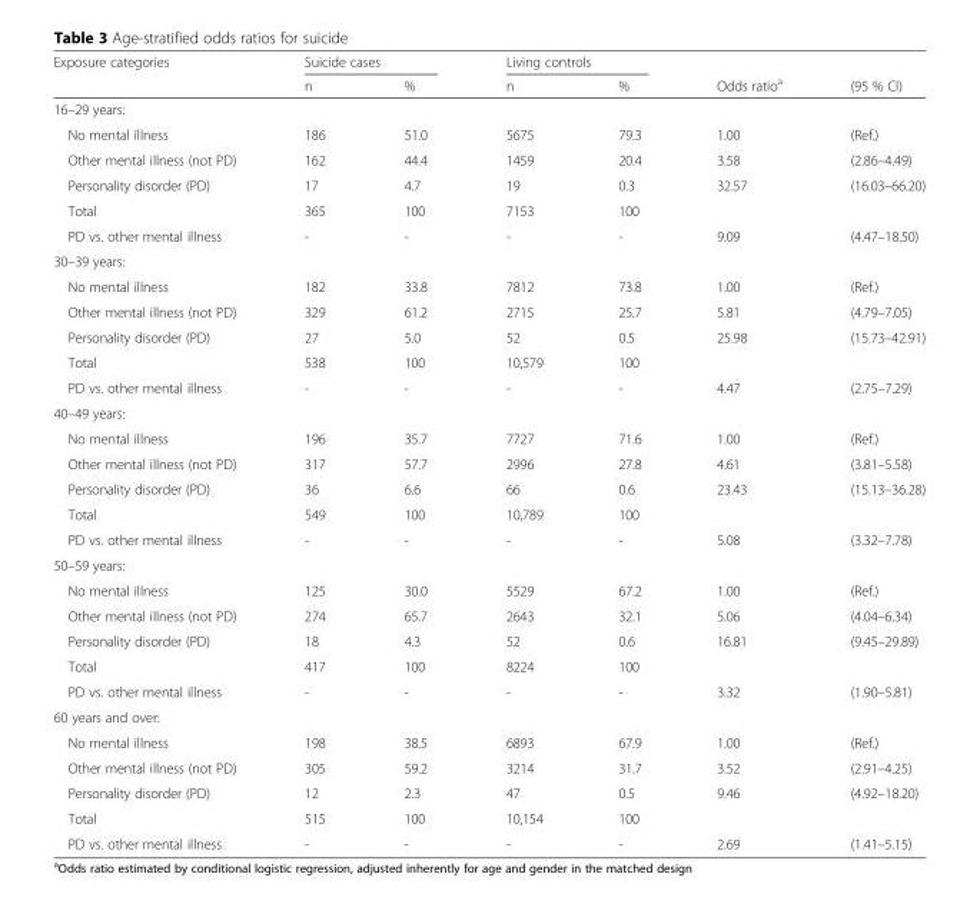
<table><thead><tr><td rowspan="2">Exposure categories</td><td colspan="2">Suicide cases</td><td colspan="2">Living controls</td><td rowspan="2">Odds ratio<sup>a</sup></td><td rowspan="2">(95 % CI)</td></tr><tr><td>n</td><td>%</td><td>n</td><td>%</td></tr></thead><tbody><tr><td colspan="7">16–29 years:</td></tr><tr><td>No mental illness</td><td>186</td><td>51.0</td><td>5675</td><td>79.3</td><td>1.00</td><td>(Ref.)</td></tr><tr><td>Other mental illness (not PD)</td><td>162</td><td>44.4</td><td>1459</td><td>20.4</td><td>3.58</td><td>(2.86–4.49)</td></tr><tr><td>Personality disorder (PD)</td><td>17</td><td>4.7</td><td>19</td><td>0.3</td><td>32.57</td><td>(16.03–66.20)</td></tr><tr><td>Total</td><td>365</td><td>100</td><td>7153</td><td>100</td><td></td><td></td></tr><tr><td>PD vs. other mental illness</td><td>-</td><td>-</td><td>-</td><td>-</td><td>9.09</td><td>(4.47–18.50)</td></tr><tr><td colspan="7">30–39 years:</td></tr><tr><td>No mental illness</td><td>182</td><td>33.8</td><td>7812</td><td>73.8</td><td>1.00</td><td>(Ref.)</td></tr><tr><td>Other mental illness (not PD)</td><td>329</td><td>61.2</td><td>2715</td><td>25.7</td><td>5.81</td><td>(4.79–7.05)</td></tr><tr><td>Personality disorder (PD)</td><td>27</td><td>5.0</td><td>52</td><td>0.5</td><td>25.98</td><td>(15.73–42.91)</td></tr><tr><td>Total</td><td>538</td><td>100</td><td>10,579</td><td>100</td><td></td><td></td></tr><tr><td>PD vs. other mental illness</td><td>-</td><td>-</td><td>-</td><td>-</td><td>4.47</td><td>(2.75–7.29)</td></tr><tr><td colspan="7">40–49 years:</td></tr><tr><td>No mental illness</td><td>196</td><td>35.7</td><td>7727</td><td>71.6</td><td>1.00</td><td>(Ref.)</td></tr><tr><td>Other mental illness (not PD)</td><td>317</td><td>57.7</td><td>2996</td><td>27.8</td><td>4.61</td><td>(3.81–5.58)</td></tr><tr><td>Personality disorder (PD)</td><td>36</td><td>6.6</td><td>66</td><td>0.6</td><td>23.43</td><td>(15.13–36.28)</td></tr><tr><td>Total</td><td>549</td><td>100</td><td>10,789</td><td>100</td><td></td><td></td></tr><tr><td>PD vs. other mental illness</td><td>-</td><td>-</td><td>-</td><td>-</td><td>5.08</td><td>(3.32–7.78)</td></tr><tr><td colspan="7">50–59 years:</td></tr><tr><td>No mental illness</td><td>125</td><td>30.0</td><td>5529</td><td>67.2</td><td>1.00</td><td>(Ref.)</td></tr><tr><td>Other mental illness (not PD)</td><td>274</td><td>65.7</td><td>2643</td><td>32.1</td><td>5.06</td><td>(4.04–6.34)</td></tr><tr><td>Personality disorder (PD)</td><td>18</td><td>4.3</td><td>52</td><td>0.6</td><td>16.81</td><td>(9.45–29.89)</td></tr><tr><td>Total</td><td>417</td><td>100</td><td>8224</td><td>100</td><td></td><td></td></tr><tr><td>PD vs. other mental illness</td><td>-</td><td>-</td><td>-</td><td>-</td><td>3.32</td><td>(1.90–5.81)</td></tr><tr><td colspan="7">60 years and over:</td></tr><tr><td>No mental illness</td><td>198</td><td>38.5</td><td>6893</td><td>67.9</td><td>1.00</td><td>(Ref.)</td></tr><tr><td>Other mental illness (not PD)</td><td>305</td><td>59.2</td><td>3214</td><td>31.7</td><td>3.52</td><td>(2.91–4.25)</td></tr><tr><td>Personality disorder (PD)</td><td>12</td><td>2.3</td><td>47</td><td>0.5</td><td>9.46</td><td>(4.92–18.20)</td></tr><tr><td>Total</td><td>515</td><td>100</td><td>10,154</td><td>100</td><td></td><td></td></tr><tr><td>PD vs. other mental illness</td><td>-</td><td>-</td><td>-</td><td>-</td><td>2.69</td><td>(1.41–5.15)</td></tr></tbody></table>